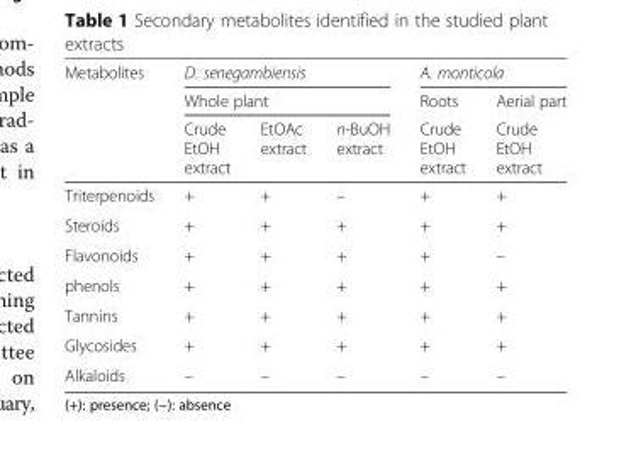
<table><thead><tr><td rowspan="3">Metabolites</td><td rowspan="2" colspan="3">D. senegambiensis Whole plant</td><td colspan="2">A. monticola</td></tr><tr><td rowspan="2">Roots Crude EtOH extract</td><td rowspan="2">Aerial part Crude EtOH extract</td></tr><tr><td>Crude EtOH extract</td><td>EtOAc extract</td><td>n-BuOH extract</td></tr></thead><tbody><tr><td>Triterpenoids</td><td>+</td><td>+</td><td>–</td><td>+</td><td>+</td></tr><tr><td>Steroids</td><td>+</td><td>+</td><td>+</td><td>+</td><td>+</td></tr><tr><td>Flavonoids</td><td>+</td><td>+</td><td>+</td><td>+</td><td>–</td></tr><tr><td>phenols</td><td>+</td><td>+</td><td>+</td><td>+</td><td>+</td></tr><tr><td>Tannins</td><td>+</td><td>+</td><td>+</td><td>+</td><td>+</td></tr><tr><td>Glycosides</td><td>+</td><td>+</td><td>+</td><td>+</td><td>+</td></tr><tr><td>Alkaloids</td><td>–</td><td>–</td><td>–</td><td>–</td><td>–</td></tr></tbody></table>